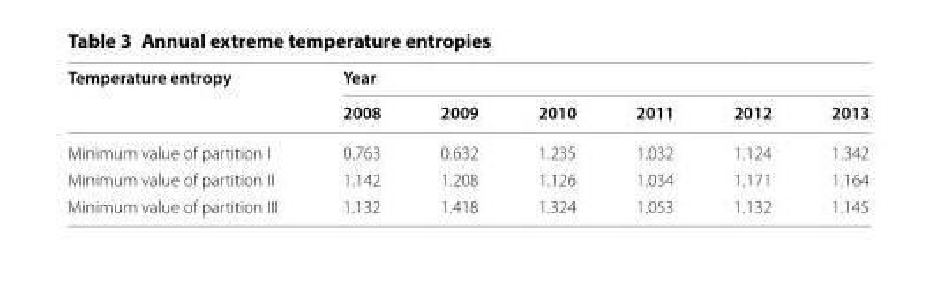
<table><thead><tr><td rowspan="2">Temperature entropy</td><td colspan="6">Year</td></tr><tr><td>2008</td><td>2009</td><td>2010</td><td>2011</td><td>2012</td><td>2013</td></tr></thead><tbody><tr><td>Minimum value of partition I</td><td>0.763</td><td>0.632</td><td>1.235</td><td>1.032</td><td>1.124</td><td>1.342</td></tr><tr><td>Minimum value of partition II</td><td>1.142</td><td>1.208</td><td>1.126</td><td>1.034</td><td>1.171</td><td>1.164</td></tr><tr><td>Minimum value of partition III</td><td>1.132</td><td>1.418</td><td>1.324</td><td>1.053</td><td>1.132</td><td>1.145</td></tr></tbody></table>